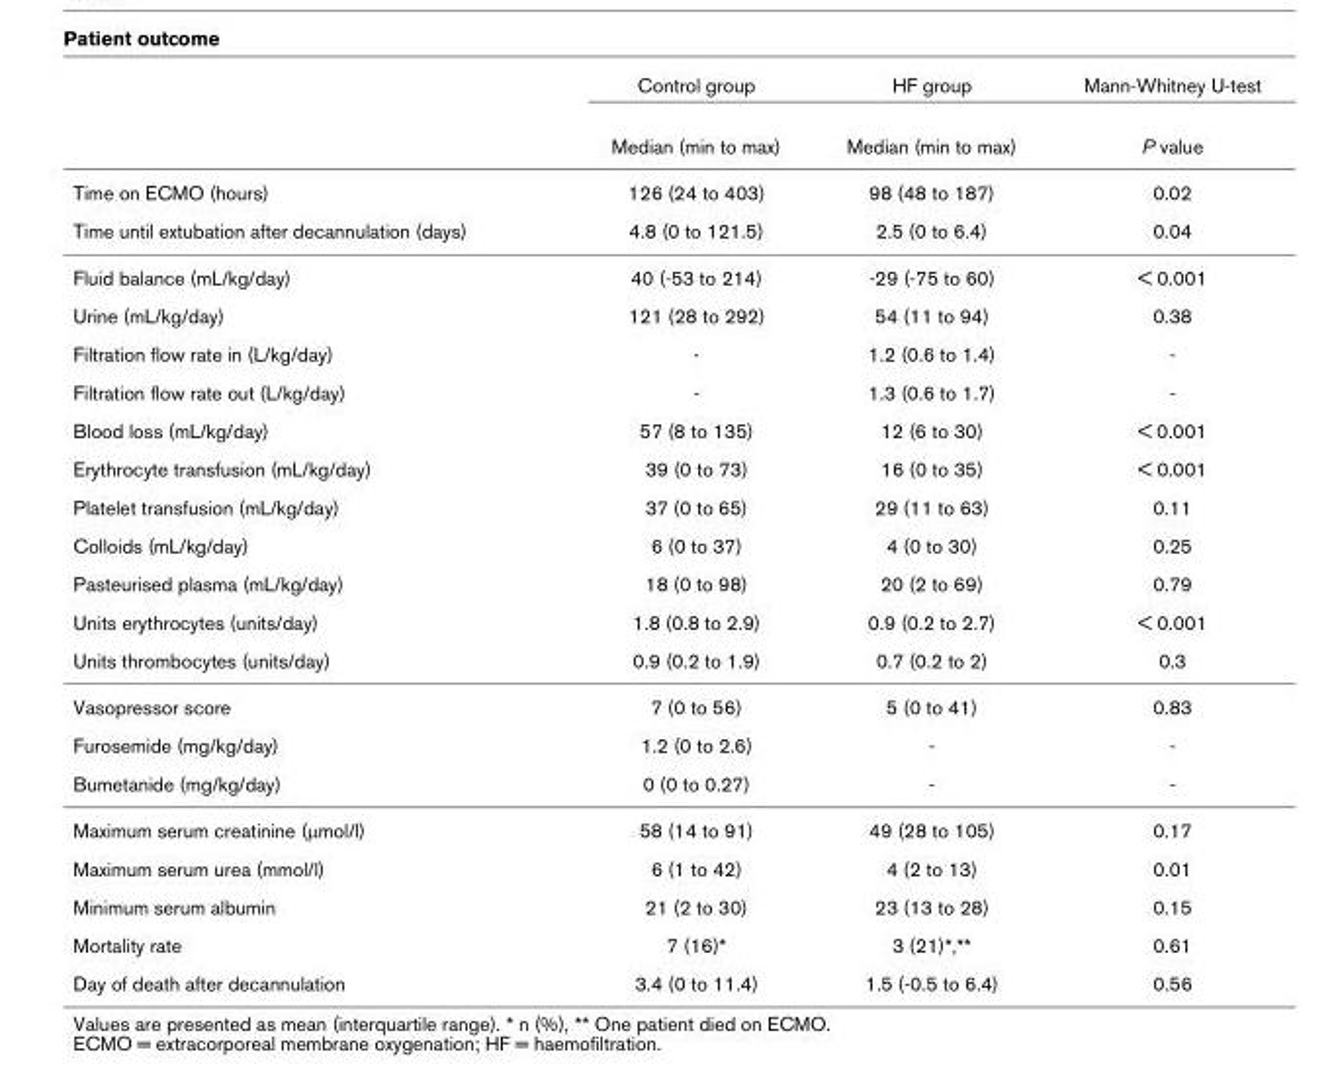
<table><thead><tr><td rowspan="2"></td><td rowspan="2">Control group Median (min to max)</td><td rowspan="2">HF group Median (min to max)</td><td rowspan="2">Mann-Whitney U-test P value</td></tr><tr></tr></thead><tbody><tr><td>Time on ECMO (hours)</td><td>126 (24 to 403)</td><td>98 (48 to 187)</td><td>0.02</td></tr><tr><td>Time until extubation after decannulation (days)</td><td>4.8 (0 to 121.5)</td><td>2.5 (0 to 6.4)</td><td>0.04</td></tr><tr><td>Fluid balance (mL/kg/day)</td><td>40 (-53 to 214)</td><td>-29 (-75 to 60)</td><td>&lt; 0.001</td></tr><tr><td>Urine (mL/kg/day)</td><td>121 (28 to 292)</td><td>54 (11 to 94)</td><td>0.38</td></tr><tr><td>Filtration flow rate in (L/kg/day)</td><td>-</td><td>1.2 (0.6 to 1.4)</td><td>-</td></tr><tr><td>Filtration flow rate out (L/kg/day)</td><td>-</td><td>1.3 (0.6 to 1.7)</td><td>-</td></tr><tr><td>Blood loss (mL/kg/day)</td><td>57 (8 to 135)</td><td>12 (6 to 30)</td><td>&lt; 0.001</td></tr><tr><td>Erythrocyte transfusion (mL/kg/day)</td><td>39 (0 to 73)</td><td>16 (0 to 35)</td><td>&lt; 0.001</td></tr><tr><td>Platelet transfusion (mL/kg/day)</td><td>37 (0 to 65)</td><td>29 (11 to 63)</td><td>0.11</td></tr><tr><td>Colloids (mL/kg/day)</td><td>6 (0 to 37)</td><td>4 (0 to 30)</td><td>0.25</td></tr><tr><td>Pasteurised plasma (mL/kg/day)</td><td>18 (0 to 98)</td><td>20 (2 to 69)</td><td>0.79</td></tr><tr><td>Units erythrocytes (units/day)</td><td>1.8 (0.8 to 2.9)</td><td>0.9 (0.2 to 2.7)</td><td>&lt; 0.001</td></tr><tr><td>Units thrombocytes (units/day)</td><td>0.9 (0.2 to 1.9)</td><td>0.7 (0.2 to 2)</td><td>0.3</td></tr><tr><td>Vasopressor score</td><td>7 (0 to 56)</td><td>5 (0 to 41)</td><td>0.83</td></tr><tr><td>Furosemide (mg/kg/day)</td><td>1.2 (0 to 2.6)</td><td>-</td><td>-</td></tr><tr><td>Bumetanide (mg/kg/day)</td><td>0 (0 to 0.27)</td><td>-</td><td>-</td></tr><tr><td>Maximum serum creatinine (μmol/l)</td><td>58 (14 to 91)</td><td>49 (28 to 105)</td><td>0.17</td></tr><tr><td>Maximum serum urea (mmol/l)</td><td>6 (1 to 42)</td><td>4 (2 to 13)</td><td>0.01</td></tr><tr><td>Minimum serum albumin</td><td>21 (2 to 30)</td><td>23 (13 to 28)</td><td>0.15</td></tr><tr><td>Mortality rate</td><td>7 (16)*</td><td>3 (21)*,**</td><td>0.61</td></tr><tr><td>Day of death after decannulation</td><td>3.4 (0 to 11.4)</td><td>1.5 (-0.5 to 6.4)</td><td>0.56</td></tr></tbody></table>